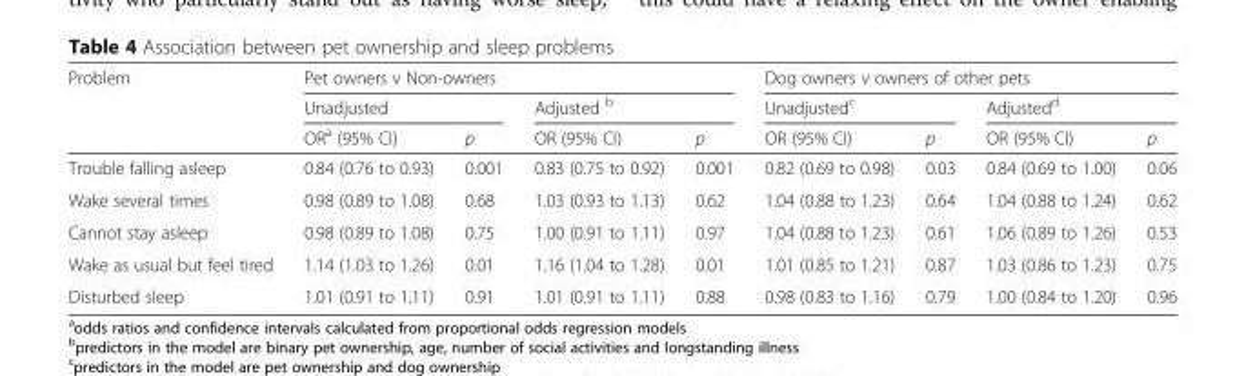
<table><thead><tr><td rowspan="3">Problem</td><td colspan="4">Pet owners v Non-owners</td><td colspan="4">Dog owners v owners of other pets</td></tr><tr><td colspan="2">Unadjusted</td><td colspan="2">Adjusted <sup>b</sup></td><td colspan="2">Unadjusted<sup>c</sup></td><td colspan="2">Adjusted<sup>d</sup></td></tr><tr><td>OR<sup>a</sup> (95% CI)</td><td>p</td><td>OR (95% CI)</td><td>p</td><td>OR (95% CI)</td><td>p</td><td>OR (95% CI)</td><td>p</td></tr></thead><tbody><tr><td>Trouble falling asleep</td><td>0.84 (0.76 to 0.93)</td><td>0.001</td><td>0.83 (0.75 to 0.92)</td><td>0.001</td><td>0.82 (0.69 to 0.98)</td><td>0.03</td><td>0.84 (0.69 to 1.00)</td><td>0.06</td></tr><tr><td>Wake several times</td><td>0.98 (0.89 to 1.08)</td><td>0.68</td><td>1.03 (0.93 to 1.13)</td><td>0.62</td><td>1.04 (0.88 to 1.23)</td><td>0.64</td><td>1.04 (0.88 to 1.24)</td><td>0.62</td></tr><tr><td>Cannot stay asleep</td><td>0.98 (0.89 to 1.08)</td><td>0.75</td><td>1.00 (0.91 to 1.11)</td><td>0.97</td><td>1.04 (0.88 to 1.23)</td><td>0.61</td><td>1.06 (0.89 to 1.26)</td><td>0.53</td></tr><tr><td>Wake as usual but feel tired</td><td>1.14 (1.03 to 1.26)</td><td>0.01</td><td>1.16 (1.04 to 1.28)</td><td>0.01</td><td>1.01 (0.85 to 1.21)</td><td>0.87</td><td>1.03 (0.86 to 1.23)</td><td>0.75</td></tr><tr><td>Disturbed sleep</td><td>1.01 (0.91 to 1.11)</td><td>0.91</td><td>1.01 (0.91 to 1.11)</td><td>0.88</td><td>0.98 (0.83 to 1.16)</td><td>0.79</td><td>1.00 (0.84 to 1.20)</td><td>0.96</td></tr></tbody></table>